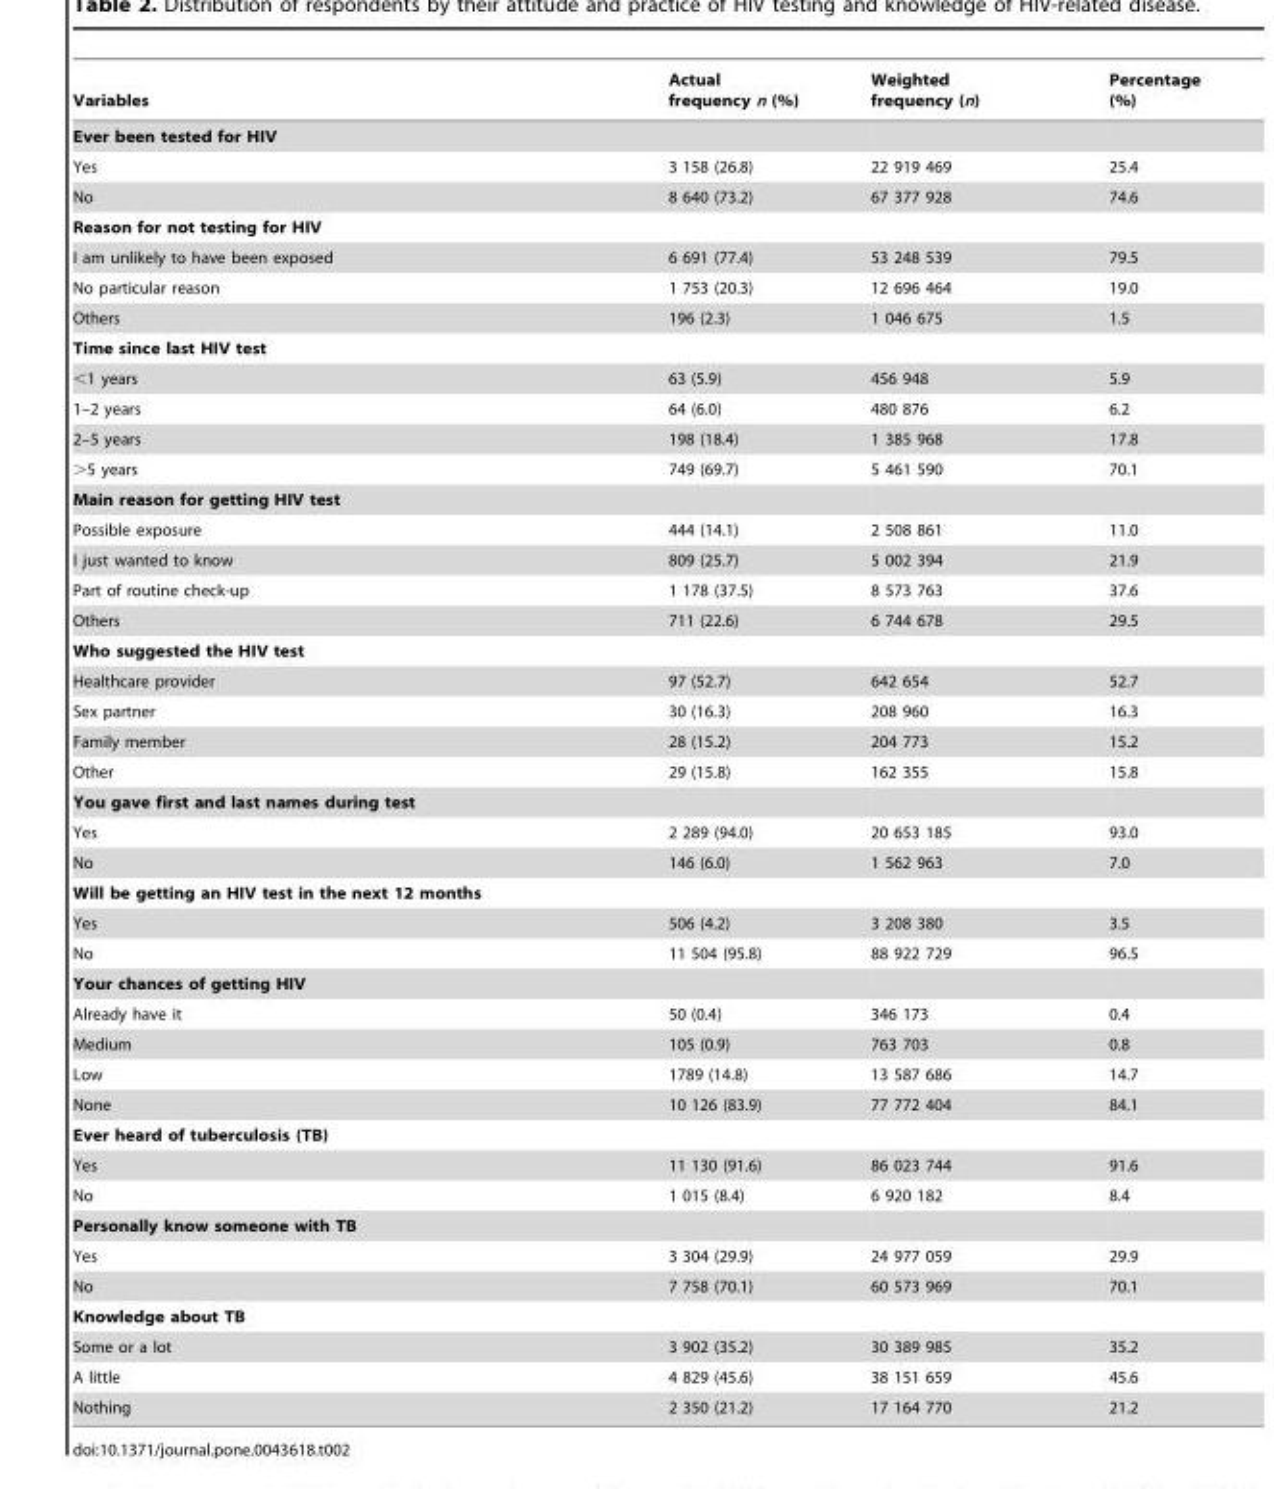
<table><thead><tr><td>Variables</td><td>Actual frequency n (%)</td><td>Weighted frequency (n)</td><td>Percentage (%)</td></tr></thead><tbody><tr><td colspan="4">Ever been tested for HIV</td></tr><tr><td>Yes</td><td>3 158 (26.8)</td><td>22 919 469</td><td>25.4</td></tr><tr><td>No</td><td>8 640 (73.2)</td><td>67 377 928</td><td>74.6</td></tr><tr><td colspan="4">Reason for not testing for HIV</td></tr><tr><td>I am unlikely to have been exposed</td><td>6 691 (77.4)</td><td>53 248 539</td><td>79.5</td></tr><tr><td>No particular reason</td><td>1 753 (20.3)</td><td>12 696 464</td><td>19.0</td></tr><tr><td>Others</td><td>196 (2.3)</td><td>1 046 675</td><td>1.5</td></tr><tr><td colspan="4">Time since last HIV test</td></tr><tr><td>&lt;1 years</td><td>63 (5.9)</td><td>456 948</td><td>5.9</td></tr><tr><td>1–2 years</td><td>64 (6.0)</td><td>480 876</td><td>6.2</td></tr><tr><td>2–5 years</td><td>198 (18.4)</td><td>1 385 968</td><td>17.8</td></tr><tr><td>&gt;5 years</td><td>749 (69.7)</td><td>5 461 590</td><td>70.1</td></tr><tr><td colspan="4">Main reason for getting HIV test</td></tr><tr><td>Possible exposure</td><td>444 (14.1)</td><td>2 508 861</td><td>11.0</td></tr><tr><td>I just wanted to know</td><td>809 (25.7)</td><td>5 002 394</td><td>21.9</td></tr><tr><td>Part of routine check-up</td><td>1 178 (37.5)</td><td>8 573 763</td><td>37.6</td></tr><tr><td>Others</td><td>711 (22.6)</td><td>6 744 678</td><td>29.5</td></tr><tr><td colspan="4">Who suggested the HIV test</td></tr><tr><td>Healthcare provider</td><td>97 (52.7)</td><td>642 654</td><td>52.7</td></tr><tr><td>Sex partner</td><td>30 (16.3)</td><td>208 960</td><td>16.3</td></tr><tr><td>Family member</td><td>28 (15.2)</td><td>204 773</td><td>15.2</td></tr><tr><td>Other</td><td>29 (15.8)</td><td>162 355</td><td>15.8</td></tr><tr><td colspan="4">You gave first and last names during test</td></tr><tr><td>Yes</td><td>2 289 (94.0)</td><td>20 653 185</td><td>93.0</td></tr><tr><td>No</td><td>146 (6.0)</td><td>1 562 963</td><td>7.0</td></tr><tr><td colspan="4">Will be getting an HIV test in the next 12 months</td></tr><tr><td>Yes</td><td>506 (4.2)</td><td>3 208 380</td><td>3.5</td></tr><tr><td>No</td><td>11 504 (95.8)</td><td>88 922 729</td><td>96.5</td></tr><tr><td colspan="4">Your chances of getting HIV</td></tr><tr><td>Already have it</td><td>50 (0.4)</td><td>346 173</td><td>0.4</td></tr><tr><td>Medium</td><td>105 (0.9)</td><td>763 703</td><td>0.8</td></tr><tr><td>Low</td><td>1789 (14.8)</td><td>13 587 686</td><td>14.7</td></tr><tr><td>None</td><td>10 126 (83.9)</td><td>77 772 404</td><td>84.1</td></tr><tr><td colspan="4">Ever heard of tuberculosis (TB)</td></tr><tr><td>Yes</td><td>11 130 (91.6)</td><td>86 023 744</td><td>91.6</td></tr><tr><td>No</td><td>1 015 (8.4)</td><td>6 920 182</td><td>8.4</td></tr><tr><td colspan="4">Personally know someone with TB</td></tr><tr><td>Yes</td><td>3 304 (29.9)</td><td>24 977 059</td><td>29.9</td></tr><tr><td>No</td><td>7 758 (70.1)</td><td>60 573 969</td><td>70.1</td></tr><tr><td colspan="4">Knowledge about TB</td></tr><tr><td>Some or a lot</td><td>3 902 (35.2)</td><td>30 389 985</td><td>35.2</td></tr><tr><td>A little</td><td>4 829 (45.6)</td><td>38 151 659</td><td>45.6</td></tr><tr><td>Nothing</td><td>2 350 (21.2)</td><td>17 164 770</td><td>21.2</td></tr></tbody></table>